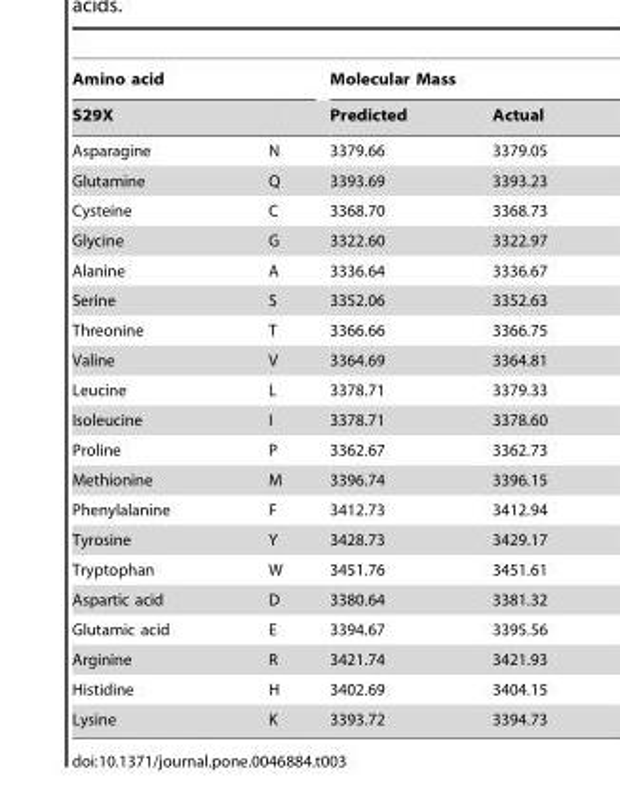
<table><thead><tr><td colspan="2">Amino acid</td><td colspan="2">Molecular Mass</td></tr><tr><td>S29X</td><td></td><td>Predicted</td><td>Actual</td></tr></thead><tbody><tr><td>Asparagine</td><td>N</td><td>3379.66</td><td>3379.05</td></tr><tr><td>Glutamine</td><td>Q</td><td>3393.69</td><td>3393.23</td></tr><tr><td>Cysteine</td><td>C</td><td>3368.70</td><td>3368.73</td></tr><tr><td>Glycine</td><td>G</td><td>3322.60</td><td>3322.97</td></tr><tr><td>Alanine</td><td>A</td><td>3336.64</td><td>3336.67</td></tr><tr><td>Serine</td><td>S</td><td>3352.06</td><td>3352.63</td></tr><tr><td>Threonine</td><td>T</td><td>3366.66</td><td>3366.75</td></tr><tr><td>Valine</td><td>V</td><td>3364.69</td><td>3364.81</td></tr><tr><td>Leucine</td><td>L</td><td>3378.71</td><td>3379.33</td></tr><tr><td>Isoleucine</td><td>I</td><td>3378.71</td><td>3378.60</td></tr><tr><td>Proline</td><td>P</td><td>3362.67</td><td>3362.73</td></tr><tr><td>Methionine</td><td>M</td><td>3396.74</td><td>3396.15</td></tr><tr><td>Phenylalanine</td><td>F</td><td>3412.73</td><td>3412.94</td></tr><tr><td>Tyrosine</td><td>Y</td><td>3428.73</td><td>3429.17</td></tr><tr><td>Tryptophan</td><td>W</td><td>3451.76</td><td>3451.61</td></tr><tr><td>Aspartic acid</td><td>D</td><td>3380.64</td><td>3381.32</td></tr><tr><td>Glutamic acid</td><td>E</td><td>3394.67</td><td>3395.56</td></tr><tr><td>Arginine</td><td>R</td><td>3421.74</td><td>3421.93</td></tr><tr><td>Histidine</td><td>H</td><td>3402.69</td><td>3404.15</td></tr><tr><td>Lysine</td><td>K</td><td>3393.72</td><td>3394.73</td></tr></tbody></table>